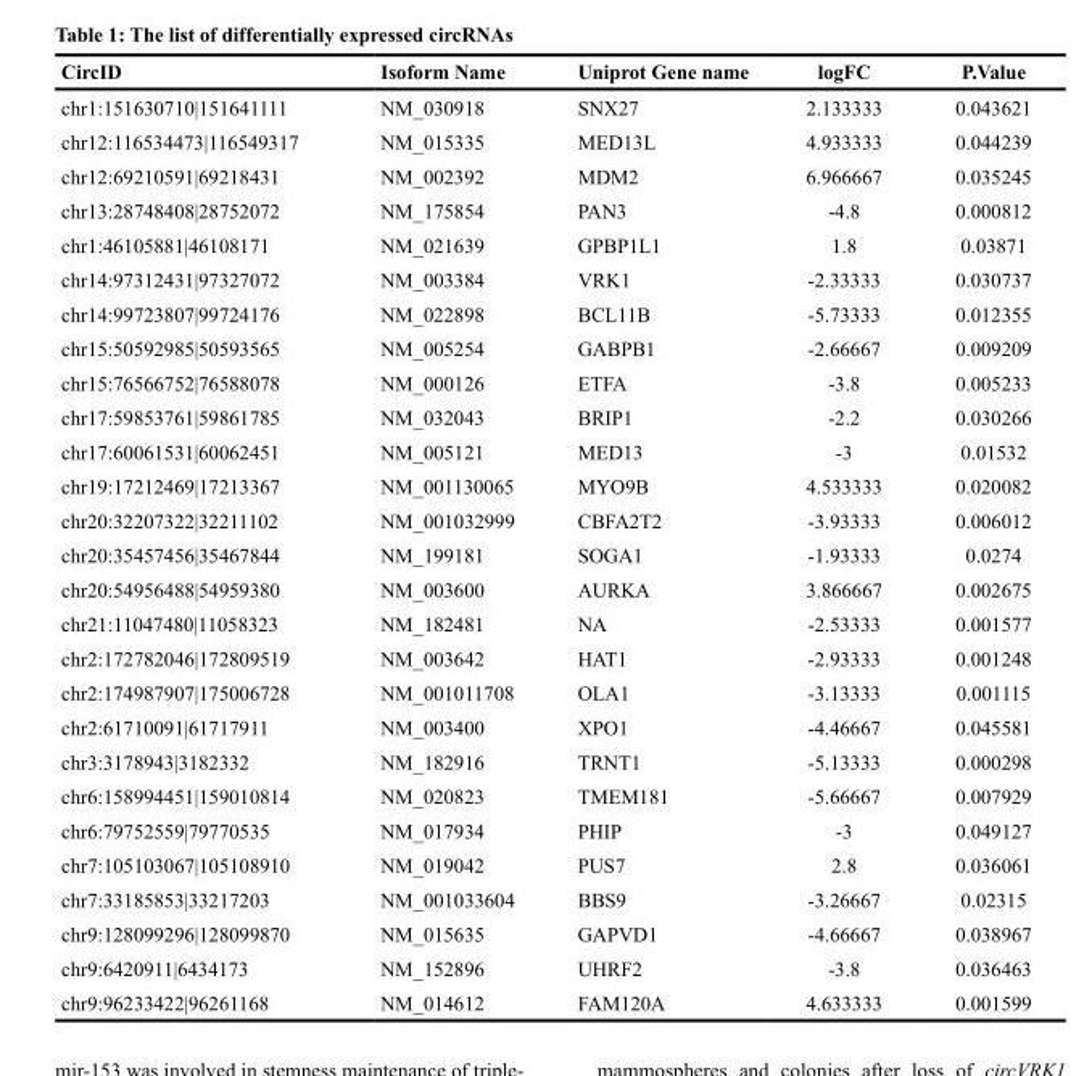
<table><thead><tr><td>CircID</td><td>Isoform Name</td><td>Uniprot Gene name</td><td>logFC</td><td>P.Value</td></tr></thead><tbody><tr><td>chr1:151630710|151641111</td><td>NM_030918</td><td>SNX27</td><td>2.133333</td><td>0.043621</td></tr><tr><td>chr12:116534473|116549317</td><td>NM_015335</td><td>MED13L</td><td>4.933333</td><td>0.044239</td></tr><tr><td>chr12:69210591|69218431</td><td>NM_002392</td><td>MDM2</td><td>6.966667</td><td>0.035245</td></tr><tr><td>chr13:28748408|28752072</td><td>NM_175854</td><td>PAN3</td><td>-4.8</td><td>0.000812</td></tr><tr><td>chr1:46105881|46108171</td><td>NM_021639</td><td>GPBP1L1</td><td>1.8</td><td>0.03871</td></tr><tr><td>chr14:97312431|97327072</td><td>NM_003384</td><td>VRK1</td><td>-2.33333</td><td>0.030737</td></tr><tr><td>chr14:99723807|99724176</td><td>NM_022898</td><td>BCL11B</td><td>-5.73333</td><td>0.012355</td></tr><tr><td>chr15:50592985|50593565</td><td>NM_005254</td><td>GABPB1</td><td>-2.66667</td><td>0.009209</td></tr><tr><td>chr15:76566752|76588078</td><td>NM_000126</td><td>ETFA</td><td>-3.8</td><td>0.005233</td></tr><tr><td>chr17:59853761|59861785</td><td>NM_032043</td><td>BRIP1</td><td>-2.2</td><td>0.030266</td></tr><tr><td>chr17:60061531|60062451</td><td>NM_005121</td><td>MED13</td><td>-3</td><td>0.01532</td></tr><tr><td>chr19:17212469|17213367</td><td>NM_001130065</td><td>MYO9B</td><td>4.533333</td><td>0.020082</td></tr><tr><td>chr20:32207322|32211102</td><td>NM_001032999</td><td>CBFA2T2</td><td>-3.93333</td><td>0.006012</td></tr><tr><td>chr20:35457456|35467844</td><td>NM_199181</td><td>SOGA1</td><td>-1.93333</td><td>0.0274</td></tr><tr><td>chr20:54956488|54959380</td><td>NM_003600</td><td>AURKA</td><td>3.866667</td><td>0.002675</td></tr><tr><td>chr21:11047480|11058323</td><td>NM_182481</td><td>NA</td><td>-2.53333</td><td>0.001577</td></tr><tr><td>chr2:172782046|172809519</td><td>NM_003642</td><td>HAT1</td><td>-2.93333</td><td>0.001248</td></tr><tr><td>chr2:174987907|175006728</td><td>NM_001011708</td><td>OLA1</td><td>-3.13333</td><td>0.001115</td></tr><tr><td>chr2:61710091|61717911</td><td>NM_003400</td><td>XPO1</td><td>-4.46667</td><td>0.045581</td></tr><tr><td>chr3:3178943|3182332</td><td>NM_182916</td><td>TRNT1</td><td>-5.13333</td><td>0.000298</td></tr><tr><td>chr6:158994451|159010814</td><td>NM_020823</td><td>TMEM181</td><td>-5.66667</td><td>0.007929</td></tr><tr><td>chr6:79752559|79770535</td><td>NM_017934</td><td>PHIP</td><td>-3</td><td>0.049127</td></tr><tr><td>chr7:105103067|105108910</td><td>NM_019042</td><td>PUS7</td><td>2.8</td><td>0.036061</td></tr><tr><td>chr7:33185853|33217203</td><td>NM_001033604</td><td>BBS9</td><td>-3.26667</td><td>0.02315</td></tr><tr><td>chr9:128099296|128099870</td><td>NM_015635</td><td>GAPVD1</td><td>-4.66667</td><td>0.038967</td></tr><tr><td>chr9:6420911|6434173</td><td>NM_152896</td><td>UHRF2</td><td>-3.8</td><td>0.036463</td></tr><tr><td>chr9:96233422|96261168</td><td>NM_014612</td><td>FAM120A</td><td>4.633333</td><td>0.001599</td></tr></tbody></table>